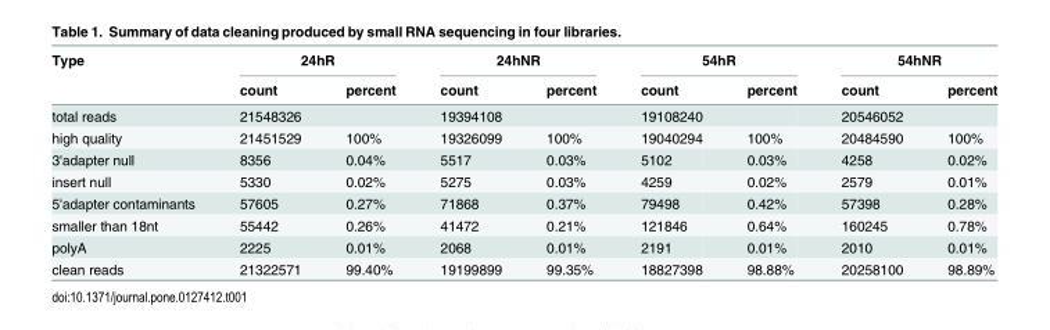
<table><thead><tr><td rowspan="2">Type</td><td colspan="2">24hR</td><td colspan="2">24hNR</td><td colspan="2">54hR</td><td colspan="2">54hNR</td></tr><tr><td>count</td><td>percent</td><td>count</td><td>percent</td><td>count</td><td>percent</td><td>count</td><td>percent</td></tr></thead><tbody><tr><td>total reads</td><td>21548326</td><td></td><td>19394108</td><td></td><td>19108240</td><td></td><td>20546052</td><td></td></tr><tr><td>high quality</td><td>21451529</td><td>100%</td><td>19326099</td><td>100%</td><td>19040294</td><td>100%</td><td>20484590</td><td>100%</td></tr><tr><td>3&#x27;adapter null</td><td>8356</td><td>0.04%</td><td>5517</td><td>0.03%</td><td>5102</td><td>0.03%</td><td>4258</td><td>0.02%</td></tr><tr><td>insert null</td><td>5330</td><td>0.02%</td><td>5275</td><td>0.03%</td><td>4259</td><td>0.02%</td><td>2579</td><td>0.01%</td></tr><tr><td>5&#x27;adapter contaminants</td><td>57605</td><td>0.27%</td><td>71868</td><td>0.37%</td><td>79498</td><td>0.42%</td><td>57398</td><td>0.28%</td></tr><tr><td>smaller than 18nt</td><td>55442</td><td>0.26%</td><td>41472</td><td>0.21%</td><td>121846</td><td>0.64%</td><td>160245</td><td>0.78%</td></tr><tr><td>polyA</td><td>2225</td><td>0.01%</td><td>2068</td><td>0.01%</td><td>2191</td><td>0.01%</td><td>2010</td><td>0.01%</td></tr><tr><td>clean reads</td><td>21322571</td><td>99.40%</td><td>19199899</td><td>99.35%</td><td>18827398</td><td>98.88%</td><td>20258100</td><td>98.89%</td></tr></tbody></table>